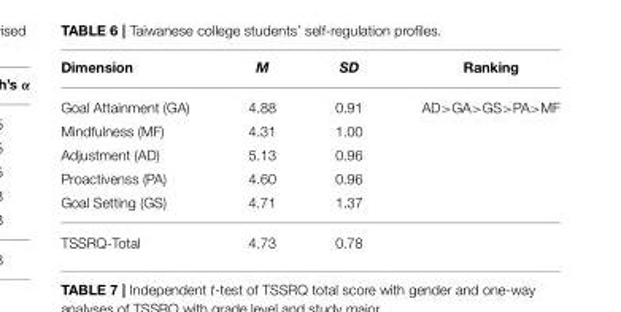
<table><thead><tr><td>Dimension</td><td>M</td><td>SD</td><td>Ranking</td></tr></thead><tbody><tr><td>Goal Attainment (GA)</td><td>4.88</td><td>0.91</td><td>AD&gt;GA&gt;GS&gt;PA&gt;MF</td></tr><tr><td>Mindfulness (MF)</td><td>4.31</td><td>1.00</td><td></td></tr><tr><td>Adjustment (AD)</td><td>5.13</td><td>0.96</td><td></td></tr><tr><td>Proactivenss (PA)</td><td>4.60</td><td>0.96</td><td></td></tr><tr><td>Goal Setting (GS)</td><td>4.71</td><td>1.37</td><td></td></tr><tr><td>TSSRQ-Total</td><td>4.73</td><td>0.78</td><td></td></tr></tbody></table>